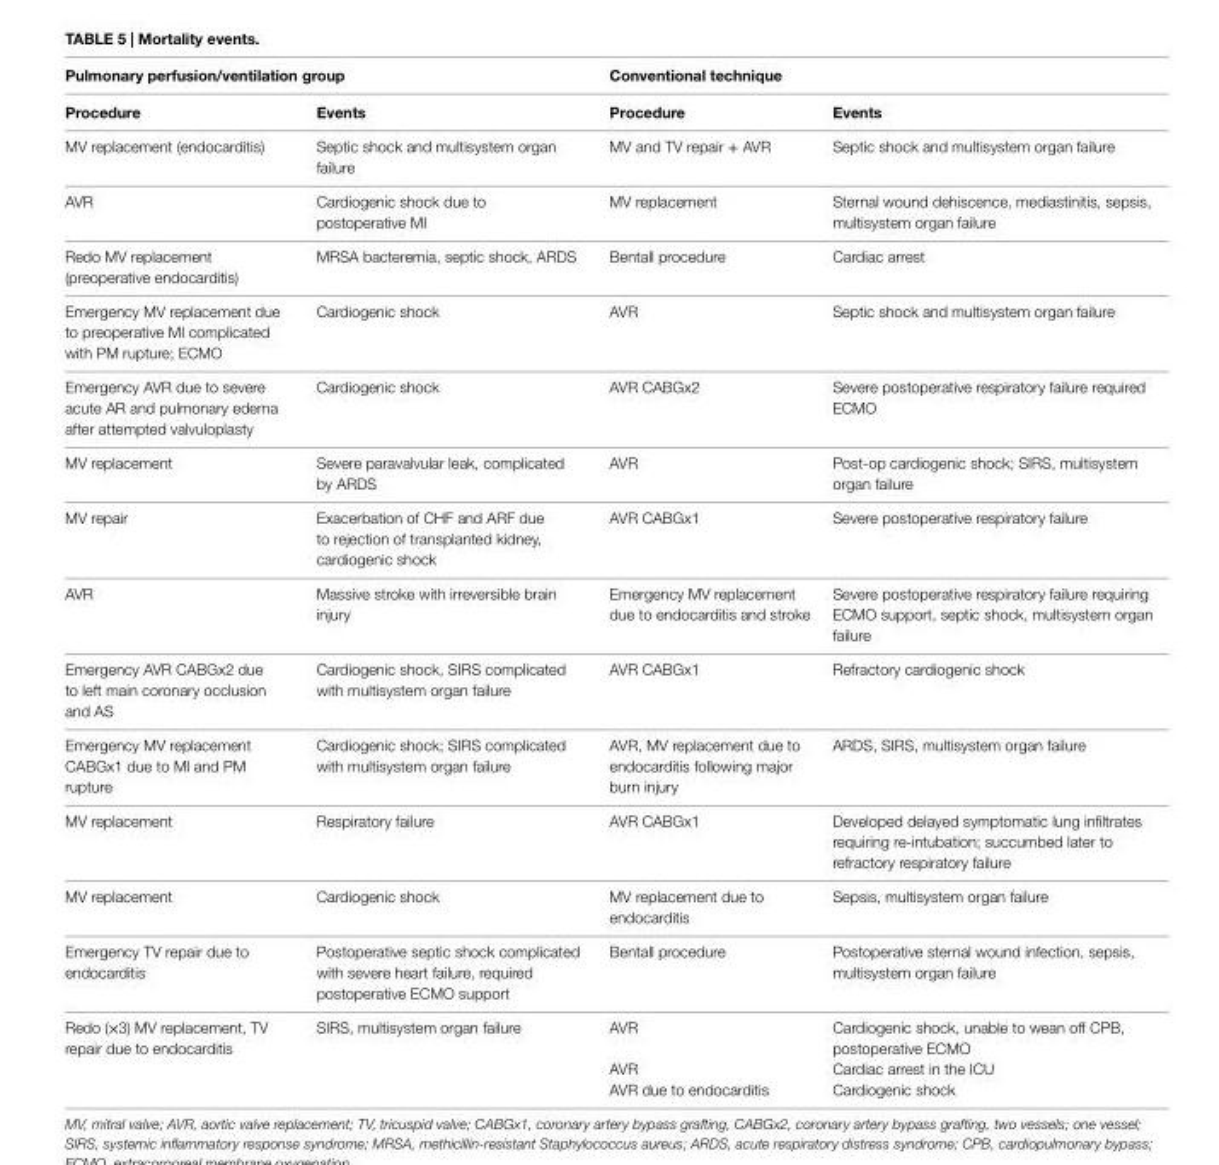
<table><thead><tr><td colspan="2">Pulmonary perfusion/ventilation group</td><td colspan="2">conventional technique</td></tr><tr><td>Procedure</td><td>events</td><td>Procedure</td><td>events</td></tr></thead><tbody><tr><td>MV replacement (endocarditis)</td><td>Septic shock and multisystem organ failure</td><td>MV and TV repair + AVR</td><td>Septic shock and multisystem organ failure</td></tr><tr><td>AVR</td><td>Cardiogenic shock due to postoperative MI</td><td>MV replacement</td><td>Sternal wound dehiscence, mediastinitis, sepsis, multisystem organ failure</td></tr><tr><td>Redo MV replacement (preoperative endocarditis)</td><td>MRSA bacteremia, septic shock, ARDS</td><td>Bentall procedure</td><td>Cardiac arrest</td></tr><tr><td>Emergency MV replacement due to preoperative MI complicated with PM rupture; ECMO</td><td>Cardiogenic shock</td><td>AVR</td><td>Septic shock and multisystem organ failure</td></tr><tr><td>Emergency AVR due to severe acute AR and pulmonary edema after attempted valvuloplasty</td><td>Cardiogenic shock</td><td>AVR CABGx2</td><td>Severe postoperative respiratory failure required ECMO</td></tr><tr><td>MV replacement</td><td>Severe paravalvular leak, complicated by ARDS</td><td>AVR</td><td>Post-op cardiogenic shock; SIRS, multisystem organ failure</td></tr><tr><td>MV repair</td><td>Exacerbation of CHF and ARF due to rejection of transplanted kidney, cardiogenic shock</td><td>AVR CABGx1</td><td>Severe postoperative respiratory failure</td></tr><tr><td>AVR</td><td>Massive stroke with irreversible brain injury</td><td>Emergency MV replacement due to endocarditis and stroke</td><td>Severe postoperative respiratory failure requiring ECMO support, septic shock, multisystem organ failure</td></tr><tr><td>Emergency AVR CABGx2 due to left main coronary occlusion and AS</td><td>Cardiogenic shock, SIRS complicated with multisystem organ failure</td><td>AVR CABGx1</td><td>Refractory cardiogenic shock</td></tr><tr><td>Emergency MV replacement CABGx1 due to MI and PM rupture</td><td>Cardiogenic shock; SIRS complicated with multisystem organ failure</td><td>AVR, MV replacement due to endocarditis following major burn injury</td><td>ARDS, SIRS, multisystem organ failure</td></tr><tr><td>MV replacement</td><td>Respiratory failure</td><td>AVR CABGx1</td><td>Developed delayed symptomatic lung infiltrates requiring re-intubation; succumbed later to refractory respiratory failure</td></tr><tr><td>MV replacement</td><td>Cardiogenic shock</td><td>MV replacement due to endocarditis</td><td>Sepsis, multisystem organ failure</td></tr><tr><td>Emergency TV repair due to endocarditis</td><td>Postoperative septic shock complicated with severe heart failure, required postoperative ECMO support</td><td>Bentall procedure</td><td>Postoperative sternal wound infection, sepsis, multisystem organ failure</td></tr><tr><td rowspan="3">Redo (×3) MV replacement, TV repair due to endocarditis</td><td>SIRS, multisystem organ failure</td><td>AVR</td><td>Cardiogenic shock, unable to wean off CPB, postoperative ECMO</td></tr><tr><td></td><td>AVR</td><td>Cardiac arrest in the ICU</td></tr><tr><td></td><td>AVR due to endocarditis</td><td>Cardiogenic shock</td></tr></tbody></table>